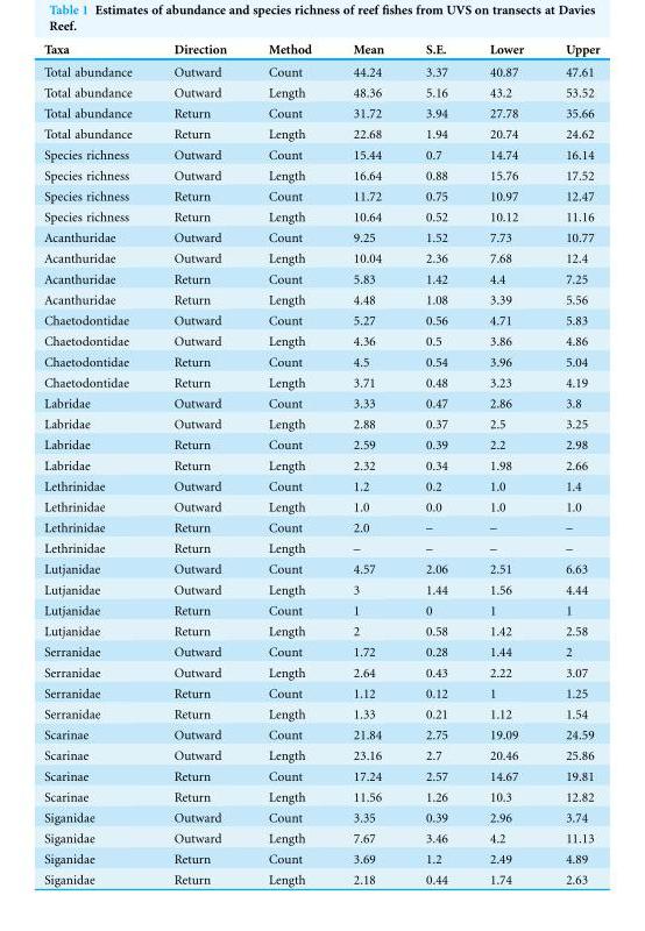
<table><thead><tr><td>Taxa</td><td>Direction</td><td>Method</td><td>Mean</td><td>S.E.</td><td>Lower</td><td>Upper</td></tr></thead><tbody><tr><td>Total abundance</td><td>Outward</td><td>Count</td><td>44.24</td><td>3.37</td><td>40.87</td><td>47.61</td></tr><tr><td>Total abundance</td><td>Outward</td><td>Length</td><td>48.36</td><td>5.16</td><td>43.2</td><td>53.52</td></tr><tr><td>Total abundance</td><td>Return</td><td>Count</td><td>31.72</td><td>3.94</td><td>27.78</td><td>35.66</td></tr><tr><td>Total abundance</td><td>Return</td><td>Length</td><td>22.68</td><td>1.94</td><td>20.74</td><td>24.62</td></tr><tr><td>Species richness</td><td>Outward</td><td>Count</td><td>15.44</td><td>0.7</td><td>14.74</td><td>16.14</td></tr><tr><td>Species richness</td><td>Outward</td><td>Length</td><td>16.64</td><td>0.88</td><td>15.76</td><td>17.52</td></tr><tr><td>Species richness</td><td>Return</td><td>Count</td><td>11.72</td><td>0.75</td><td>10.97</td><td>12.47</td></tr><tr><td>Species richness</td><td>Return</td><td>Length</td><td>10.64</td><td>0.52</td><td>10.12</td><td>11.16</td></tr><tr><td>Acanthuridae</td><td>Outward</td><td>Count</td><td>9.25</td><td>1.52</td><td>7.73</td><td>10.77</td></tr><tr><td>Acanthuridae</td><td>Outward</td><td>Length</td><td>10.04</td><td>2.36</td><td>7.68</td><td>12.4</td></tr><tr><td>Acanthuridae</td><td>Return</td><td>Count</td><td>5.83</td><td>1.42</td><td>4.4</td><td>7.25</td></tr><tr><td>Acanthuridae</td><td>Return</td><td>Length</td><td>4.48</td><td>1.08</td><td>3.39</td><td>5.56</td></tr><tr><td>Chaetodontidae</td><td>Outward</td><td>Count</td><td>5.27</td><td>0.56</td><td>4.71</td><td>5.83</td></tr><tr><td>Chaetodontidae</td><td>Outward</td><td>Length</td><td>4.36</td><td>0.5</td><td>3.86</td><td>4.86</td></tr><tr><td>Chaetodontidae</td><td>Return</td><td>Count</td><td>4.5</td><td>0.54</td><td>3.96</td><td>5.04</td></tr><tr><td>Chaetodontidae</td><td>Return</td><td>Length</td><td>3.71</td><td>0.48</td><td>3.23</td><td>4.19</td></tr><tr><td>Labridae</td><td>Outward</td><td>Count</td><td>3.33</td><td>0.47</td><td>2.86</td><td>3.8</td></tr><tr><td>Labridae</td><td>Outward</td><td>Length</td><td>2.88</td><td>0.37</td><td>2.5</td><td>3.25</td></tr><tr><td>Labridae</td><td>Return</td><td>Count</td><td>2.59</td><td>0.39</td><td>2.2</td><td>2.98</td></tr><tr><td>Labridae</td><td>Return</td><td>Length</td><td>2.32</td><td>0.34</td><td>1.98</td><td>2.66</td></tr><tr><td>Lethrinidae</td><td>Outward</td><td>Count</td><td>1.2</td><td>0.2</td><td>1.0</td><td>1.4</td></tr><tr><td>Lethrinidae</td><td>Outward</td><td>Length</td><td>1.0</td><td>0.0</td><td>1.0</td><td>1.0</td></tr><tr><td>Lethrinidae</td><td>Return</td><td>Count</td><td>2.0</td><td>–</td><td>–</td><td>–</td></tr><tr><td>Lethrinidae</td><td>Return</td><td>Length</td><td>–</td><td>–</td><td>–</td><td>–</td></tr><tr><td>Lutjanidae</td><td>Outward</td><td>Count</td><td>4.57</td><td>2.06</td><td>2.51</td><td>6.63</td></tr><tr><td>Lutjanidae</td><td>Outward</td><td>Length</td><td>3</td><td>1.44</td><td>1.56</td><td>4.44</td></tr><tr><td>Lutjanidae</td><td>Return</td><td>Count</td><td>1</td><td>0</td><td>1</td><td>1</td></tr><tr><td>Lutjanidae</td><td>Return</td><td>Length</td><td>2</td><td>0.58</td><td>1.42</td><td>2.58</td></tr><tr><td>Serranidae</td><td>Outward</td><td>Count</td><td>1.72</td><td>0.28</td><td>1.44</td><td>2</td></tr><tr><td>Serranidae</td><td>Outward</td><td>Length</td><td>2.64</td><td>0.43</td><td>2.22</td><td>3.07</td></tr><tr><td>Serranidae</td><td>Return</td><td>Count</td><td>1.12</td><td>0.12</td><td>1</td><td>1.25</td></tr><tr><td>Serranidae</td><td>Return</td><td>Length</td><td>1.33</td><td>0.21</td><td>1.12</td><td>1.54</td></tr><tr><td>Scarinae</td><td>Outward</td><td>Count</td><td>21.84</td><td>2.75</td><td>19.09</td><td>24.59</td></tr><tr><td>Scarinae</td><td>Outward</td><td>Length</td><td>23.16</td><td>2.7</td><td>20.46</td><td>25.86</td></tr><tr><td>Scarinae</td><td>Return</td><td>Count</td><td>17.24</td><td>2.57</td><td>14.67</td><td>19.81</td></tr><tr><td>Scarinae</td><td>Return</td><td>Length</td><td>11.56</td><td>1.26</td><td>10.3</td><td>12.82</td></tr><tr><td>Siganidae</td><td>Outward</td><td>Count</td><td>3.35</td><td>0.39</td><td>2.96</td><td>3.74</td></tr><tr><td>Siganidae</td><td>Outward</td><td>Length</td><td>7.67</td><td>3.46</td><td>4.2</td><td>11.13</td></tr><tr><td>Siganidae</td><td>Return</td><td>Count</td><td>3.69</td><td>1.2</td><td>2.49</td><td>4.89</td></tr><tr><td>Siganidae</td><td>Return</td><td>Length</td><td>2.18</td><td>0.44</td><td>1.74</td><td>2.63</td></tr></tbody></table>